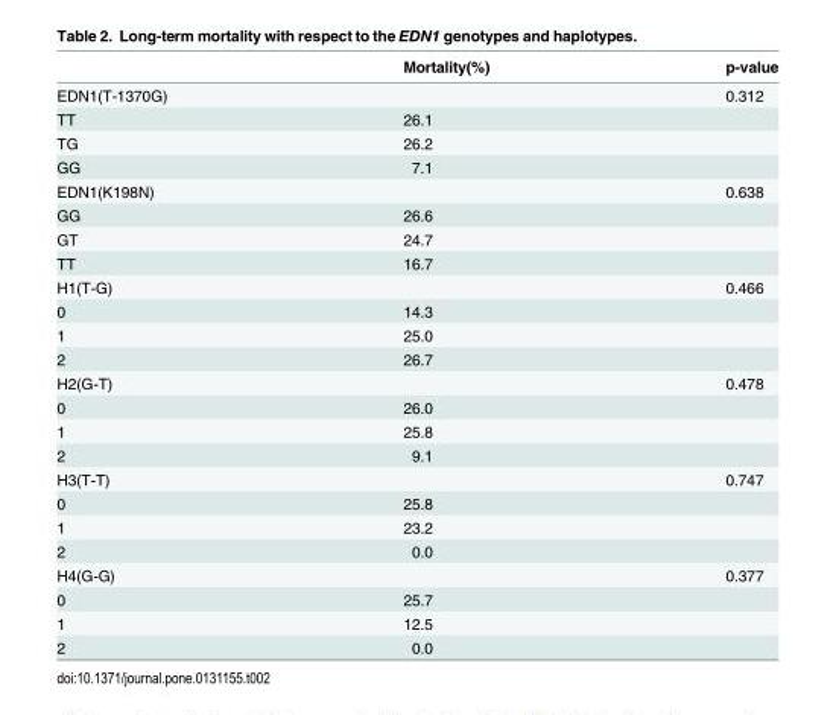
<table><thead><tr><td></td><td>Mortality(%)</td><td>p-value</td></tr></thead><tbody><tr><td>EDN1(T-1370G)</td><td></td><td>0.312</td></tr><tr><td>TT</td><td>26.1</td><td></td></tr><tr><td>TG</td><td>26.2</td><td></td></tr><tr><td>GG</td><td>7.1</td><td></td></tr><tr><td>EDN1(K198N)</td><td></td><td>0.638</td></tr><tr><td>GG</td><td>26.6</td><td></td></tr><tr><td>GT</td><td>24.7</td><td></td></tr><tr><td>TT</td><td>16.7</td><td></td></tr><tr><td>H1(T-G)</td><td></td><td>0.466</td></tr><tr><td>0</td><td>14.3</td><td></td></tr><tr><td>1</td><td>25.0</td><td></td></tr><tr><td>2</td><td>26.7</td><td></td></tr><tr><td>H2(G-T)</td><td></td><td>0.478</td></tr><tr><td>0</td><td>26.0</td><td></td></tr><tr><td>1</td><td>25.8</td><td></td></tr><tr><td>2</td><td>9.1</td><td></td></tr><tr><td>H3(T-T)</td><td></td><td>0.747</td></tr><tr><td>0</td><td>25.8</td><td></td></tr><tr><td>1</td><td>23.2</td><td></td></tr><tr><td>2</td><td>0.0</td><td></td></tr><tr><td>H4(G-G)</td><td></td><td>0.377</td></tr><tr><td>0</td><td>25.7</td><td></td></tr><tr><td>1</td><td>12.5</td><td></td></tr><tr><td>2</td><td>0.0</td><td></td></tr></tbody></table>